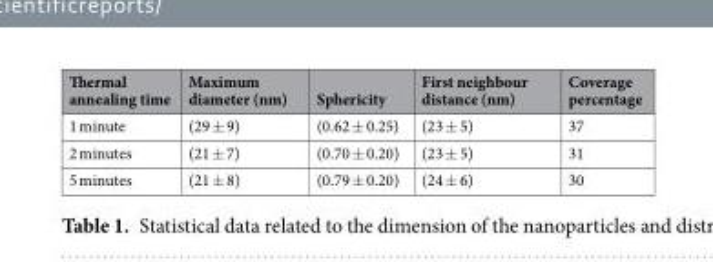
<table><thead><tr><td>Thermal annealing time</td><td>Maximum diameter (nm)</td><td>Sphericity</td><td>First neighbour distance (nm)</td><td>Coverage percentage</td></tr></thead><tbody><tr><td>1 minute</td><td>(29 ± 9)</td><td>(0.62 ± 0.25)</td><td>(23 ± 5)</td><td>37</td></tr><tr><td>2 minutes</td><td>(21 ± 7)</td><td>(0.70 ± 0.20)</td><td>(23 ± 5)</td><td>31</td></tr><tr><td>5 minutes</td><td>(21 ± 8)</td><td>(0.79 ± 0.20)</td><td>(24 ± 6)</td><td>30</td></tr></tbody></table>